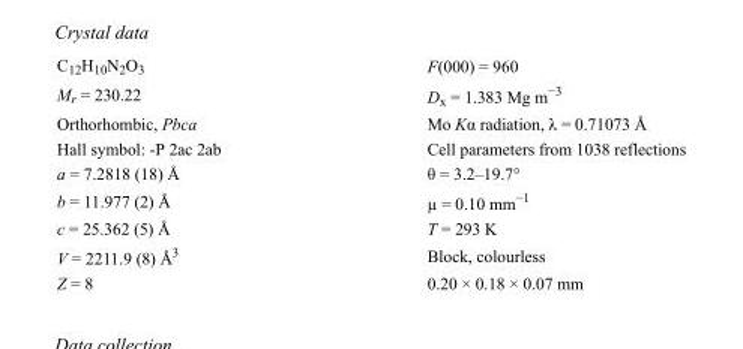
<table><tbody><tr><td>C<sub>12</sub>H<sub>10</sub>N<sub>2</sub>O<sub>3</sub></td><td>F(000) = 960</td></tr><tr><td>M<sub>r</sub> = 230.22</td><td>D<sub>x</sub> = 1.383 Mg m<sup>−3</sup></td></tr><tr><td>Orthorhombic, Pbca</td><td>Mo Kα radiation, λ = 0.71073 Å</td></tr><tr><td>Hall symbol: -P 2ac 2ab</td><td>Cell parameters from 1038 reflections</td></tr><tr><td>a = 7.2818 (18) Å</td><td>θ = 3.2–19.7°</td></tr><tr><td>b = 11.977 (2) Å</td><td>µ = 0.10 mm<sup>−1</sup></td></tr><tr><td>c = 25.362 (5) Å</td><td>T = 293 K</td></tr><tr><td>V = 2211.9 (8) Å<sup>3</sup></td><td>Block, colourless</td></tr><tr><td>Z = 8</td><td>0.20 × 0.18 × 0.07 mm</td></tr></tbody></table>